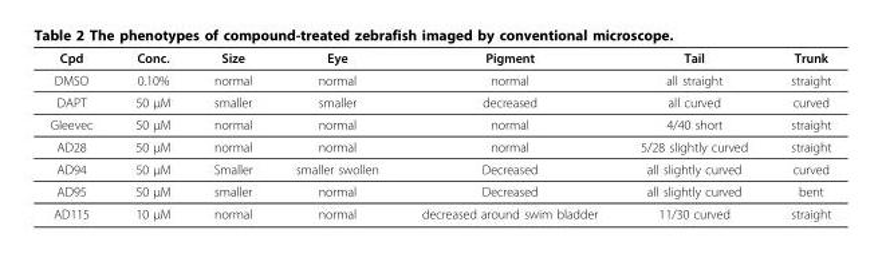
<table><thead><tr><td>Cpd</td><td>Conc.</td><td>Size</td><td>Eye</td><td>Pigment</td><td>Tail</td><td>Trunk</td></tr></thead><tbody><tr><td>DMSO</td><td>0.10%</td><td>normal</td><td>normal</td><td>normal</td><td>all straight</td><td>straight</td></tr><tr><td>DAPT</td><td>50 μM</td><td>smaller</td><td>smaller</td><td>decreased</td><td>all curved</td><td>curved</td></tr><tr><td>Gleevec</td><td>50 μM</td><td>normal</td><td>normal</td><td>normal</td><td>4/40 short</td><td>straight</td></tr><tr><td>AD28</td><td>50 μM</td><td>normal</td><td>normal</td><td>normal</td><td>5/28 slightly curved</td><td>straight</td></tr><tr><td>AD94</td><td>50 μM</td><td>Smaller</td><td>smaller swollen</td><td>Decreased</td><td>all slightly curved</td><td>curved</td></tr><tr><td>AD95</td><td>50 μM</td><td>smaller</td><td>normal</td><td>Decreased</td><td>all slightly curved</td><td>bent</td></tr><tr><td>AD115</td><td>10 μM</td><td>normal</td><td>normal</td><td>decreased around swim bladder</td><td>11/30 curved</td><td>straight</td></tr></tbody></table>